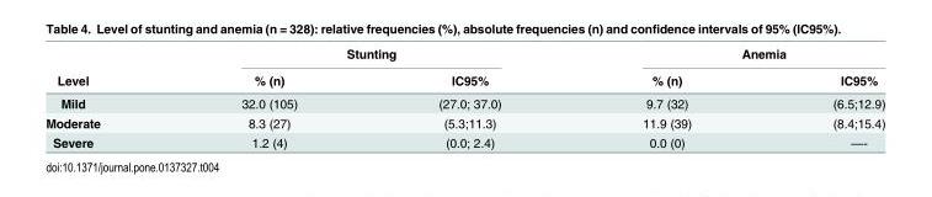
<table><thead><tr><td rowspan="2">Level</td><td colspan="2">Stunting</td><td colspan="2">Anemia</td></tr><tr><td>% (n)</td><td>IC95%</td><td>% (n)</td><td>IC95%</td></tr></thead><tbody><tr><td>Mild</td><td>32.0 (105)</td><td>(27.0; 37.0)</td><td>9.7 (32)</td><td>(6.5;12.9)</td></tr><tr><td>Moderate</td><td>8.3 (27)</td><td>(5.3;11.3)</td><td>11.9 (39)</td><td>(8.4;15.4)</td></tr><tr><td>Severe</td><td>1.2 (4)</td><td>(0.0; 2.4)</td><td>0.0 (0)</td><td>—-</td></tr></tbody></table>